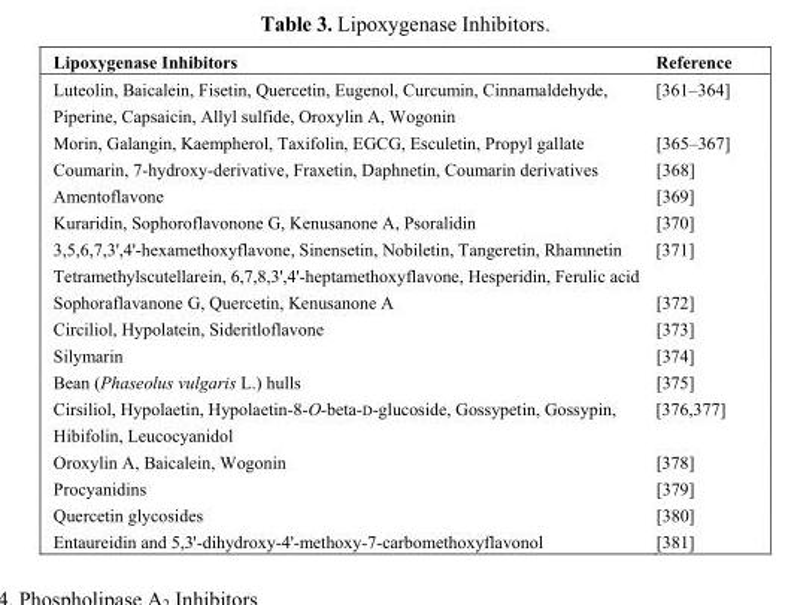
<table><thead><tr><td>Lipoxygenase Inhibitors</td><td>Reference</td></tr></thead><tbody><tr><td>Luteolin, Baicalein, Fisetin, Quercetin, Eugenol, Curcumin, Cinnamaldehyde, Piperine, Capsaicin, Allyl sulfide, Oroxylin A, Wogonin</td><td>[361–364]</td></tr><tr><td>Morin, Galangin, Kaempherol, Taxifolin, EGCG, Esculetin, Propyl gallate</td><td>[365–367]</td></tr><tr><td>Coumarin, 7-hydroxy-derivative, Fraxetin, Daphnetin, Coumarin derivatives</td><td>[368]</td></tr><tr><td>Amentoflavone</td><td>[369]</td></tr><tr><td>Kuraridin, Sophoroflavonone G, Kenusanone A, Psoralidin</td><td>[370]</td></tr><tr><td>3,5,6,7,3&#x27;,4&#x27;-hexamethoxyflavone, Sinensetin, Nobiletin, Tangeretin, Rhamnetin Tetramethylscutellarein, 6,7,8,3&#x27;,4&#x27;-heptamethoxyflavone, Hesperidin, Ferulic acid</td><td>[371]</td></tr><tr><td>Sophoraflavanone G, Quercetin, Kenusanone A</td><td>[372]</td></tr><tr><td>Circiliol, Hypolatein, Sideritloflavone</td><td>[373]</td></tr><tr><td>Silymarin</td><td>[374]</td></tr><tr><td>Bean (Phaseolus vulgaris L.) hulls</td><td>[375]</td></tr><tr><td>Cirsiliol, Hypolaetin, Hypolaetin-8-O-beta-D-glucoside, Gossypetin, Gossypin, Hibifolin, Leucocyanidol</td><td>[376,377]</td></tr><tr><td>Oroxylin A, Baicalein, Wogonin</td><td>[378]</td></tr><tr><td>Procyanidins</td><td>[379]</td></tr><tr><td>Quercetin glycosides</td><td>[380]</td></tr><tr><td>Entaureidin and 5,3&#x27;-dihydroxy-4&#x27;-methoxy-7-carbomethoxyflavonol</td><td>[381]</td></tr></tbody></table>